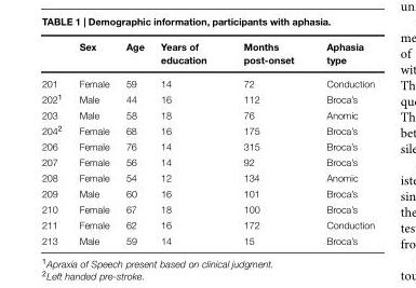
<table><thead><tr><td></td><td>Sex</td><td>Age</td><td>Years of education</td><td>Months post-onset</td><td>Aphasia type</td></tr></thead><tbody><tr><td>201</td><td>Female</td><td>59</td><td>14</td><td>72</td><td>Conduction</td></tr><tr><td>202<sup>1</sup></td><td>Male</td><td>44</td><td>16</td><td>112</td><td>Broca’s</td></tr><tr><td>203</td><td>Male</td><td>58</td><td>18</td><td>76</td><td>Anomic</td></tr><tr><td>204<sup>2</sup></td><td>Female</td><td>68</td><td>16</td><td>175</td><td>Broca’s</td></tr><tr><td>206</td><td>Female</td><td>76</td><td>14</td><td>315</td><td>Broca’s</td></tr><tr><td>207</td><td>Female</td><td>56</td><td>14</td><td>92</td><td>Broca’s</td></tr><tr><td>208</td><td>Female</td><td>54</td><td>12</td><td>134</td><td>Anomic</td></tr><tr><td>209</td><td>Male</td><td>60</td><td>16</td><td>101</td><td>Broca’s</td></tr><tr><td>210</td><td>Female</td><td>67</td><td>18</td><td>100</td><td>Broca’s</td></tr><tr><td>211</td><td>Female</td><td>62</td><td>16</td><td>172</td><td>Conduction</td></tr><tr><td>213</td><td>Male</td><td>59</td><td>14</td><td>15</td><td>Broca’s</td></tr></tbody></table>